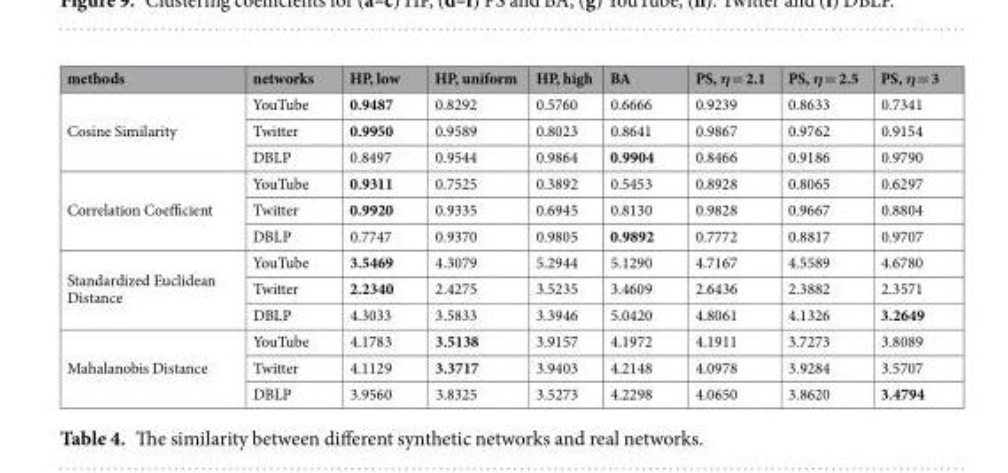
<table><thead><tr><td>methods</td><td>networks</td><td>HP, low</td><td>HP, uniform</td><td>HP, high</td><td>BA</td><td>PS, η = 2.1</td><td>PS, η = 2.5</td><td>PS, η = 3</td></tr></thead><tbody><tr><td rowspan="3">Cosine Similarity</td><td>YouTube</td><td>0.9487</td><td>0.8292</td><td>0.5760</td><td>0.6666</td><td>0.9239</td><td>0.8633</td><td>0.7341</td></tr><tr><td>Twitter</td><td>0.9950</td><td>0.9589</td><td>0.8023</td><td>0.8641</td><td>0.9867</td><td>0.9762</td><td>0.9154</td></tr><tr><td>DBLP</td><td>0.8497</td><td>0.9544</td><td>0.9864</td><td>0.9904</td><td>0.8466</td><td>0.9186</td><td>0.9790</td></tr><tr><td rowspan="3">Correlation Coefficient</td><td>YouTube</td><td>0.9311</td><td>0.7525</td><td>0.3892</td><td>0.5453</td><td>0.8928</td><td>0.8065</td><td>0.6297</td></tr><tr><td>Twitter</td><td>0.9920</td><td>0.9335</td><td>0.6945</td><td>0.8130</td><td>0.9828</td><td>0.9667</td><td>0.8804</td></tr><tr><td>DBLP</td><td>0.7747</td><td>0.9370</td><td>0.9805</td><td>0.9892</td><td>0.7772</td><td>0.8817</td><td>0.9707</td></tr><tr><td rowspan="3">Standardized Euclidean Distance</td><td>YouTube</td><td>3.5469</td><td>4.3079</td><td>5.2944</td><td>5.1290</td><td>4.7167</td><td>4.5589</td><td>4.6780</td></tr><tr><td>Twitter</td><td>2.2340</td><td>2.4275</td><td>3.5235</td><td>3.4609</td><td>2.6436</td><td>2.3882</td><td>2.3571</td></tr><tr><td>DBLP</td><td>4.3033</td><td>3.5833</td><td>3.3946</td><td>5.0420</td><td>4.8061</td><td>4.1326</td><td>3.2649</td></tr><tr><td rowspan="3">Mahalanobis Distance</td><td>YouTube</td><td>4.1783</td><td>3.5138</td><td>3.9157</td><td>4.1972</td><td>4.1911</td><td>3.7273</td><td>3.8089</td></tr><tr><td>Twitter</td><td>4.1129</td><td>3.3717</td><td>3.9403</td><td>4.2148</td><td>4.0978</td><td>3.9284</td><td>3.5707</td></tr><tr><td>DBLP</td><td>3.9560</td><td>3.8325</td><td>3.5273</td><td>4.2298</td><td>4.0650</td><td>3.8620</td><td>3.4794</td></tr></tbody></table>